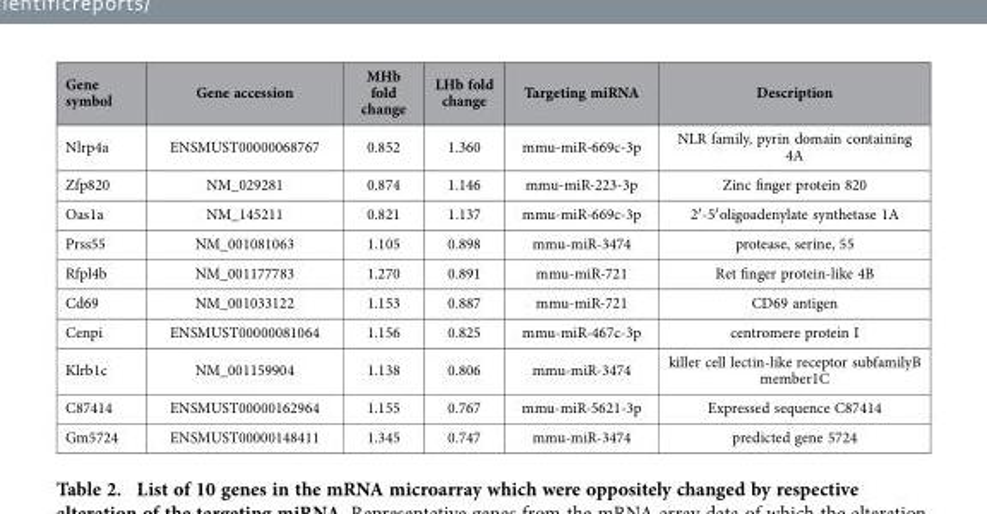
<table><thead><tr><td>Gene symbol</td><td>Gene accession</td><td>MHb fold change</td><td>LHb fold change</td><td>Targeting miRNA</td><td>Description</td></tr></thead><tbody><tr><td>Nlrp4a</td><td>ENSMUST00000068767</td><td>0.852</td><td>1.360</td><td>mmu-miR-669c-3p</td><td>NLR family, pyrin domain containing 4A</td></tr><tr><td>Zfp820</td><td>NM_029281</td><td>0.874</td><td>1.146</td><td>mmu-miR-223-3p</td><td>Zinc finger protein 820</td></tr><tr><td>Oas1a</td><td>NM_145211</td><td>0.821</td><td>1.137</td><td>mmu-miR-669c-3p</td><td>2′ -5′ oligoadenylate synthetase 1A</td></tr><tr><td>Prss55</td><td>NM_001081063</td><td>1.105</td><td>0.898</td><td>mmu-miR-3474</td><td>protease, serine, 55</td></tr><tr><td>Rfpl4b</td><td>NM_001177783</td><td>1.270</td><td>0.891</td><td>mmu-miR-721</td><td>Ret finger protein-like 4B</td></tr><tr><td>Cd69</td><td>NM_001033122</td><td>1.153</td><td>0.887</td><td>mmu-miR-721</td><td>CD69 antigen</td></tr><tr><td>Cenpi</td><td>ENSMUST00000081064</td><td>1.156</td><td>0.825</td><td>mmu-miR-467c-3p</td><td>centromere protein I</td></tr><tr><td>Klrb1c</td><td>NM_001159904</td><td>1.138</td><td>0.806</td><td>mmu-miR-3474</td><td>killer cell lectin-like receptor subfamilyB member1C</td></tr><tr><td>C87414</td><td>ENSMUST00000162964</td><td>1.155</td><td>0.767</td><td>mmu-miR-5621-3p</td><td>Expressed sequence C87414</td></tr><tr><td>Gm5724</td><td>ENSMUST00000148411</td><td>1.345</td><td>0.747</td><td>mmu-miR-3474</td><td>predicted gene 5724</td></tr></tbody></table>